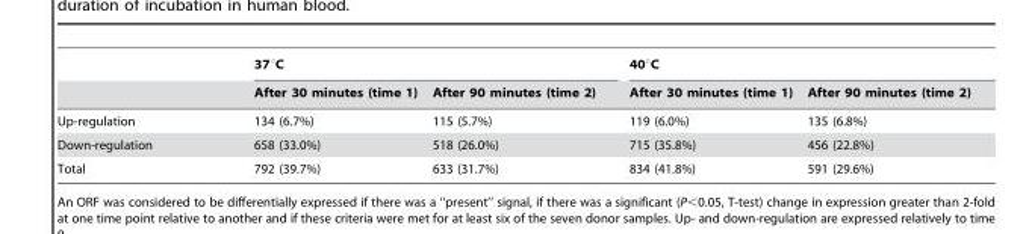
<table><thead><tr><td rowspan="2"></td><td colspan="2">37°C</td><td colspan="2">40°C</td></tr><tr><td>After 30 minutes (time 1)</td><td>After 90 minutes (time 2)</td><td>After 30 minutes (time 1)</td><td>After 90 minutes (time 2)</td></tr></thead><tbody><tr><td>Up-regulation</td><td>134 (6.7%)</td><td>115 (5.7%)</td><td>119 (6.0%)</td><td>135 (6.8%)</td></tr><tr><td>Down-regulation</td><td>658 (33.0%)</td><td>518 (26.0%)</td><td>715 (35.8%)</td><td>456 (22.8%)</td></tr><tr><td>Total</td><td>792 (39.7%)</td><td>633 (31.7%)</td><td>834 (41.8%)</td><td>591 (29.6%)</td></tr></tbody></table>